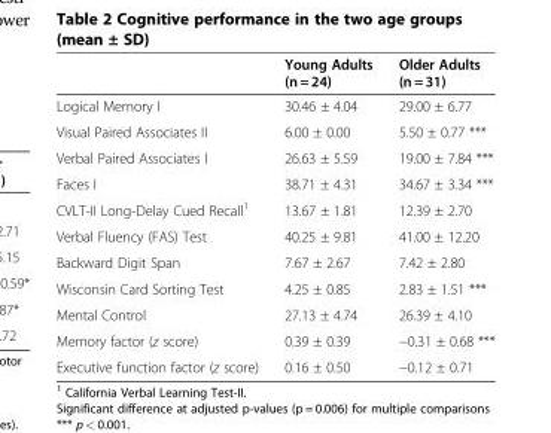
<table><thead><tr><td></td><td>Young Adults (n = 24)</td><td>Older Adults (n = 31)</td></tr></thead><tbody><tr><td>Logical Memory I</td><td>30.46 ± 4.04</td><td>29.00 ± 6.77</td></tr><tr><td>Visual Paired Associates II</td><td>6.00 ± 0.00</td><td>5.50 ± 0.77 ***</td></tr><tr><td>Verbal Paired Associates I</td><td>26.63 ± 5.59</td><td>19.00 ± 7.84 ***</td></tr><tr><td>Faces I</td><td>38.71 ± 4.31</td><td>34.67 ± 3.34 ***</td></tr><tr><td>CVLT-II Long-Delay Cued Recall<sup>1</sup></td><td>13.67 ± 1.81</td><td>12.39 ± 2.70</td></tr><tr><td>Verbal Fluency (FAS) Test</td><td>40.25 ± 9.81</td><td>41.00 ± 12.20</td></tr><tr><td>Backward Digit Span</td><td>7.67 ± 2.67</td><td>7.42 ± 2.80</td></tr><tr><td>Wisconsin Card Sorting Test</td><td>4.25 ± 0.85</td><td>2.83 ± 1.51 ***</td></tr><tr><td>Mental Control</td><td>27.13 ± 4.74</td><td>26.39 ± 4.10</td></tr><tr><td>Memory factor (z score)</td><td>0.39 ± 0.39</td><td>−0.31 ± 0.68 ***</td></tr><tr><td>Executive function factor (z score)</td><td>0.16 ± 0.50</td><td>−0.12 ± 0.71</td></tr></tbody></table>